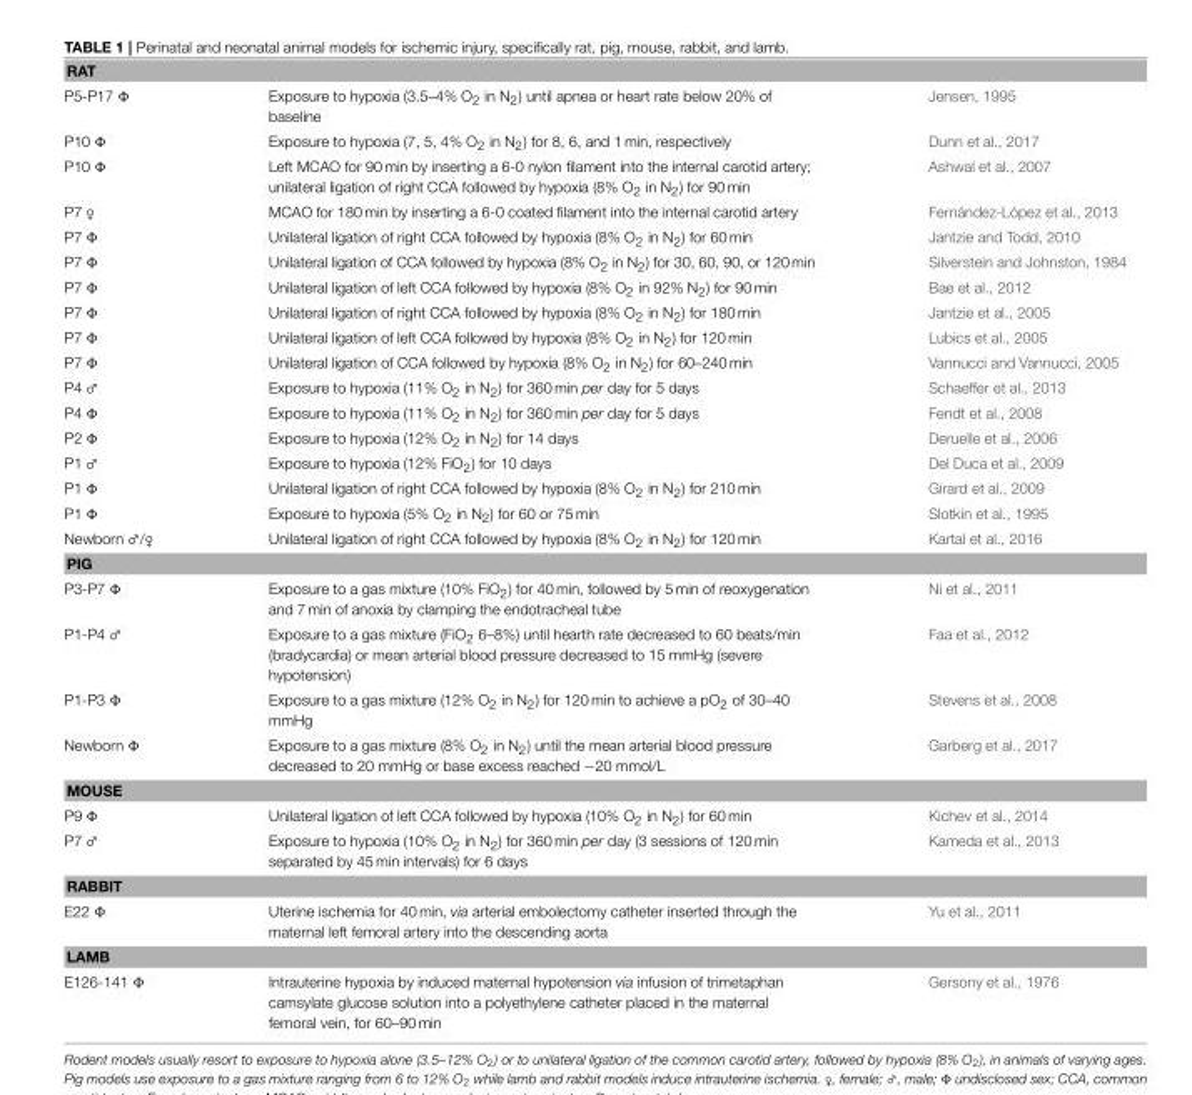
<table><tbody><tr><td colspan="3">RAT</td></tr><tr><td>P5-P17 Φ</td><td>Exposure to hypoxia (3.5–4% O<sub>2</sub> in N<sub>2</sub>) until apnea or heart rate below 20% of baseline</td><td>Jensen, 1995</td></tr><tr><td>P10 Φ</td><td>Exposure to hypoxia (7, 5, 4% O<sub>2</sub> in N<sub>2</sub>) for 8, 6, and 1 min, respectively</td><td>Dunn et al., 2017</td></tr><tr><td>P10 Φ</td><td>Left MCAO for 90 min by inserting a 6-0 nylon filament into the internal carotid artery; unilateral ligation of right CCA followed by hypoxia (8% O<sub>2</sub> in N<sub>2</sub>) for 90 min</td><td>Ashwal et al., 2007</td></tr><tr><td>P7 ♀</td><td>MCAO for 180 min by inserting a 6-0 coated filament into the internal carotid artery</td><td>Fernández-López et al., 2013</td></tr><tr><td>P7 Φ</td><td>Unilateral ligation of right CCA followed by hypoxia (8% O<sub>2</sub> in N<sub>2</sub>) for 60 min</td><td>Jantzie and Todd, 2010</td></tr><tr><td>P7 Φ</td><td>Unilateral ligation of CCA followed by hypoxia (8% O<sub>2</sub> in N<sub>2</sub>) for 30, 60, 90, or 120 min</td><td>Silverstein and Johnston, 1984</td></tr><tr><td>P7 Φ</td><td>Unilateral ligation of left CCA followed by hypoxia (8% O<sub>2</sub> in 92% N<sub>2</sub>) for 90 min</td><td>Bae et al., 2012</td></tr><tr><td>P7 Φ</td><td>Unilateral ligation of right CCA followed by hypoxia (8% O<sub>2</sub> in N<sub>2</sub>) for 180 min</td><td>Jantzie et al., 2005</td></tr><tr><td>P7 Φ</td><td>Unilateral ligation of left CCA followed by hypoxia (8% O<sub>2</sub> in N<sub>2</sub>) for 120 min</td><td>Lubics et al., 2005</td></tr><tr><td>P7 Φ</td><td>Unilateral ligation of CCA followed by hypoxia (8% O<sub>2</sub> in N<sub>2</sub>) for 60–240 min</td><td>Vannucci and Vannucci, 2005</td></tr><tr><td>P4 ♂</td><td>Exposure to hypoxia (11% O<sub>2</sub> in N<sub>2</sub>) for 360 min per day for 5 days</td><td>Schaeffer et al., 2013</td></tr><tr><td>P4 Φ</td><td>Exposure to hypoxia (11% O<sub>2</sub> in N<sub>2</sub>) for 360 min per day for 5 days</td><td>Fendt et al., 2008</td></tr><tr><td>P2 Φ</td><td>Exposure to hypoxia (12% O<sub>2</sub> in N<sub>2</sub>) for 14 days</td><td>Deruelle et al., 2006</td></tr><tr><td>P1 ♂</td><td>Exposure to hypoxia (12% FiO<sub>2</sub>) for 10 days</td><td>Del Duca et al., 2009</td></tr><tr><td>P1 Φ</td><td>Unilateral ligation of right CCA followed by hypoxia (8% O<sub>2</sub> in N<sub>2</sub>) for 210 min</td><td>Girard et al., 2009</td></tr><tr><td>P1 Φ</td><td>Exposure to hypoxia (5% O<sub>2</sub> in N<sub>2</sub>) for 60 or 75 min</td><td>Slotkin et al., 1995</td></tr><tr><td>Newborn ♂/♀</td><td>Unilateral ligation of right CCA followed by hypoxia (8% O<sub>2</sub> in N<sub>2</sub>) for 120 min</td><td>Kartal et al., 2016</td></tr><tr><td colspan="3">PIG</td></tr><tr><td>P3-P7 Φ</td><td>Exposure to a gas mixture (10% FiO<sub>2</sub>) for 40 min, followed by 5 min of reoxygenation and 7 min of anoxia by clamping the endotracheal tube</td><td>Ni et al., 2011</td></tr><tr><td>P1-P4 ♂</td><td>Exposure to a gas mixture (FiO<sub>2</sub> 6–8%) until hearth rate decreased to 60 beats/min (bradycardia) or mean arterial blood pressure decreased to 15 mmHg (severe hypotension)</td><td>Faa et al., 2012</td></tr><tr><td>P1-P3 Φ</td><td>Exposure to a gas mixture (12% O<sub>2</sub> in N<sub>2</sub>) for 120 min to achieve a pO<sub>2</sub> of 30–40 mmHg</td><td>Stevens et al., 2008</td></tr><tr><td>Newborn Φ</td><td>Exposure to a gas mixture (8% O<sub>2</sub> in N<sub>2</sub>) until the mean arterial blood pressure decreased to 20 mmHg or base excess reached −20 mmol/L</td><td>Garberg et al., 2017</td></tr><tr><td colspan="3">MOUSE</td></tr><tr><td>P9 Φ</td><td>Unilateral ligation of left CCA followed by hypoxia (10% O<sub>2</sub> in N<sub>2</sub>) for 60 min</td><td>Kichev et al., 2014</td></tr><tr><td>P7 ♂</td><td>Exposure to hypoxia (10% O<sub>2</sub> in N<sub>2</sub>) for 360 min per day (3 sessions of 120 min separated by 45 min intervals) for 6 days</td><td>Kameda et al., 2013</td></tr><tr><td colspan="3">RABBIT</td></tr><tr><td>E22 Φ</td><td>Uterine ischemia for 40 min, via arterial embolectomy catheter inserted through the maternal left femoral artery into the descending aorta</td><td>Yu et al., 2011</td></tr><tr><td colspan="3">LAMB</td></tr><tr><td>E126-141 Φ</td><td>Intrauterine hypoxia by induced maternal hypotension via infusion of trimetaphan camsylate glucose solution into a polyethylene catheter placed in the maternal femoral vein, for 60–90 min</td><td>Gersony et al., 1976</td></tr></tbody></table>